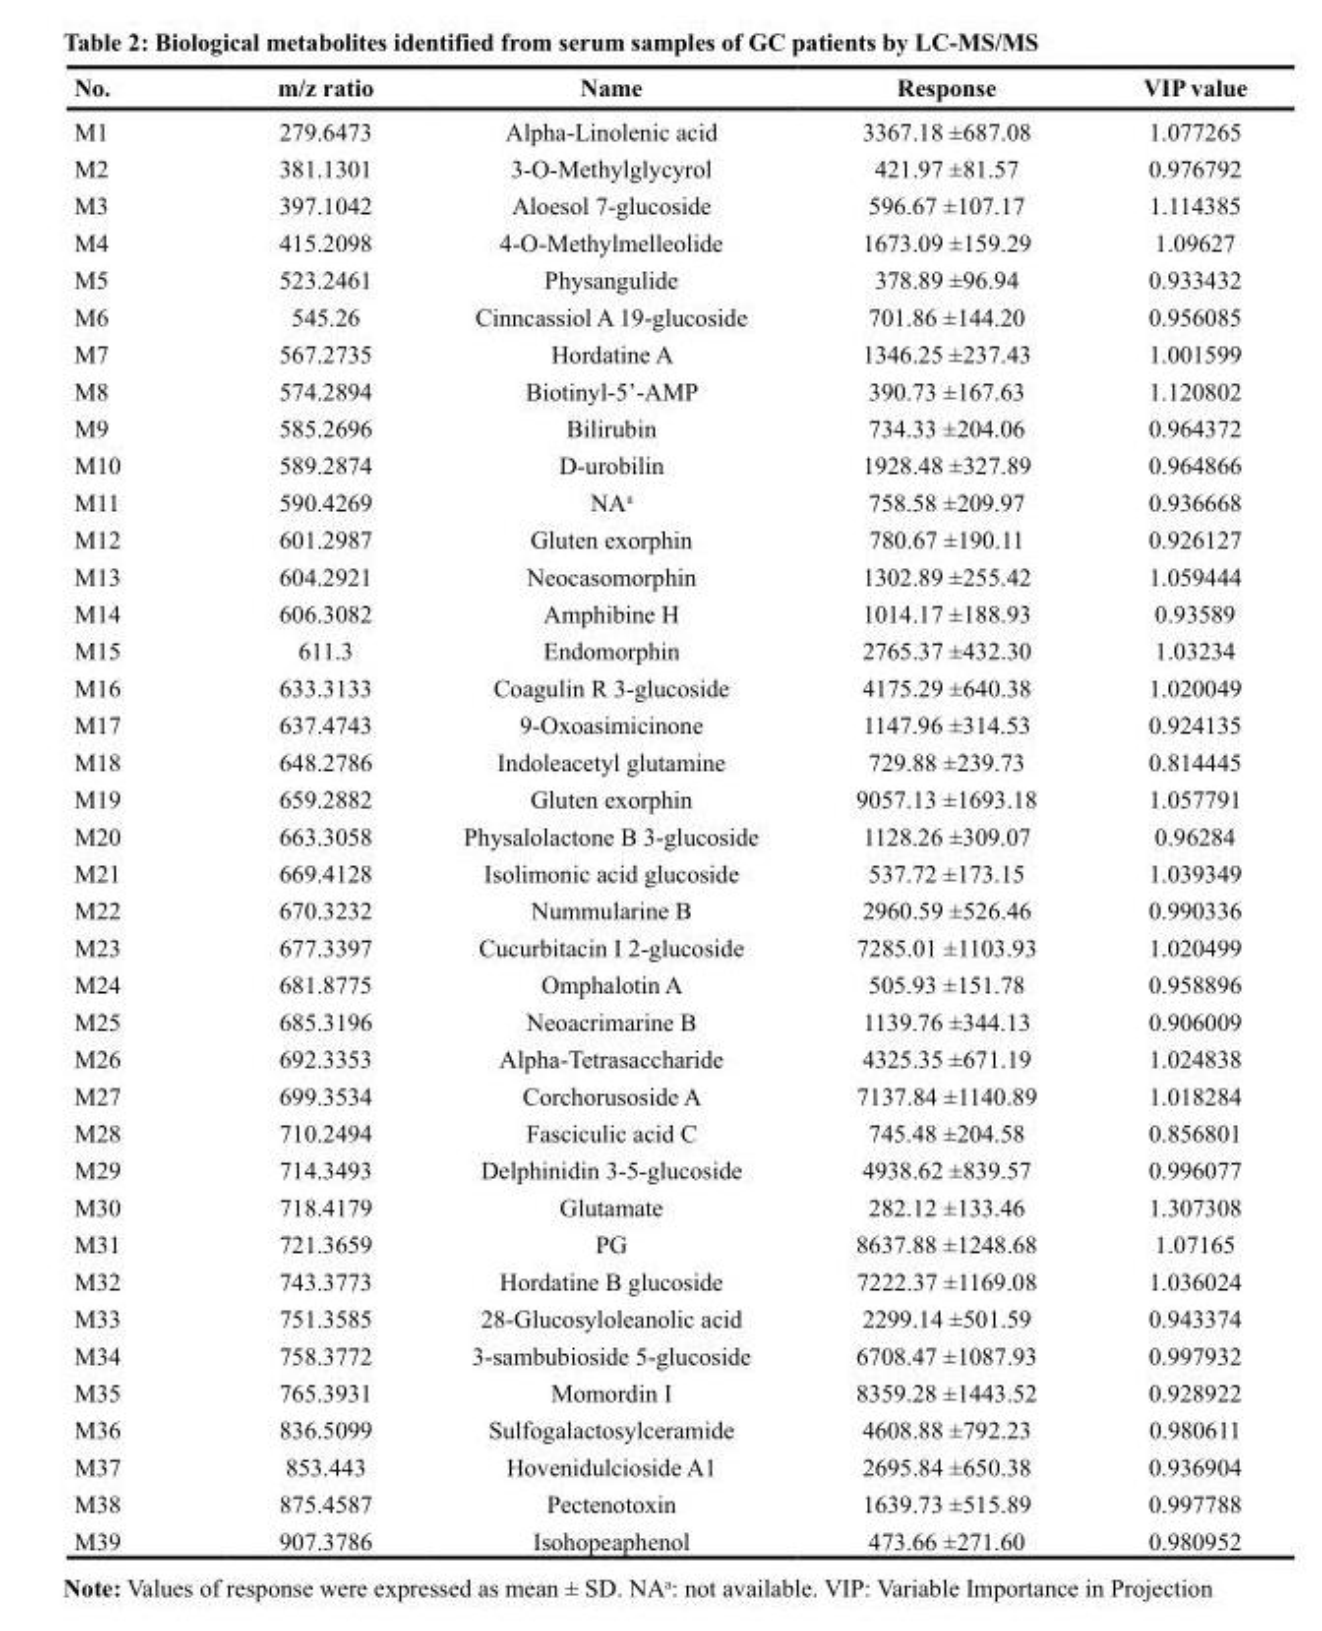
<table><thead><tr><td>No.</td><td>m/z ratio</td><td>Name</td><td>Response</td><td>VIP value</td></tr></thead><tbody><tr><td>M1</td><td>279.6473</td><td>Alpha-Linolenic acid</td><td>3367.18 ±687.08</td><td>1.077265</td></tr><tr><td>M2</td><td>381.1301</td><td>3-O-Methylglycyrol</td><td>421.97 ±81.57</td><td>0.976792</td></tr><tr><td>M3</td><td>397.1042</td><td>Aloesol 7-glucoside</td><td>596.67 ±107.17</td><td>1.114385</td></tr><tr><td>M4</td><td>415.2098</td><td>4-O-Methylmelleolide</td><td>1673.09 ±159.29</td><td>1.09627</td></tr><tr><td>M5</td><td>523.2461</td><td>Physangulide</td><td>378.89 ±96.94</td><td>0.933432</td></tr><tr><td>M6</td><td>545.26</td><td>Cinncassiol A 19-glucoside</td><td>701.86 ±144.20</td><td>0.956085</td></tr><tr><td>M7</td><td>567.2735</td><td>Hordatine A</td><td>1346.25 ±237.43</td><td>1.001599</td></tr><tr><td>M8</td><td>574.2894</td><td>Biotinyl-5’-AMP</td><td>390.73 ±167.63</td><td>1.120802</td></tr><tr><td>M9</td><td>585.2696</td><td>Bilirubin</td><td>734.33 ±204.06</td><td>0.964372</td></tr><tr><td>M10</td><td>589.2874</td><td>D-urobilin</td><td>1928.48 ±327.89</td><td>0.964866</td></tr><tr><td>M11</td><td>590.4269</td><td>NA<sup>a</sup></td><td>758.58 ±209.97</td><td>0.936668</td></tr><tr><td>M12</td><td>601.2987</td><td>Gluten exorphin</td><td>780.67 ±190.11</td><td>0.926127</td></tr><tr><td>M13</td><td>604.2921</td><td>Neocasomorphin</td><td>1302.89 ±255.42</td><td>1.059444</td></tr><tr><td>M14</td><td>606.3082</td><td>Amphibine H</td><td>1014.17 ±188.93</td><td>0.93589</td></tr><tr><td>M15</td><td>611.3</td><td>Endomorphin</td><td>2765.37 ±432.30</td><td>1.03234</td></tr><tr><td>M16</td><td>633.3133</td><td>Coagulin R 3-glucoside</td><td>4175.29 ±640.38</td><td>1.020049</td></tr><tr><td>M17</td><td>637.4743</td><td>9-Oxoasimicinone</td><td>1147.96 ±314.53</td><td>0.924135</td></tr><tr><td>M18</td><td>648.2786</td><td>Indoleacetyl glutamine</td><td>729.88 ±239.73</td><td>0.814445</td></tr><tr><td>M19</td><td>659.2882</td><td>Gluten exorphin</td><td>9057.13 ±1693.18</td><td>1.057791</td></tr><tr><td>M20</td><td>663.3058</td><td>Physalolactone B 3-glucoside</td><td>1128.26 ±309.07</td><td>0.96284</td></tr><tr><td>M21</td><td>669.4128</td><td>Isolimonic acid glucoside</td><td>537.72 ±173.15</td><td>1.039349</td></tr><tr><td>M22</td><td>670.3232</td><td>Nummularine B</td><td>2960.59 ±526.46</td><td>0.990336</td></tr><tr><td>M23</td><td>677.3397</td><td>Cucurbitacin I 2-glucoside</td><td>7285.01 ±1103.93</td><td>1.020499</td></tr><tr><td>M24</td><td>681.8775</td><td>Omphalotin A</td><td>505.93 ±151.78</td><td>0.958896</td></tr><tr><td>M25</td><td>685.3196</td><td>Neoacrimarine B</td><td>1139.76 ±344.13</td><td>0.906009</td></tr><tr><td>M26</td><td>692.3353</td><td>Alpha-Tetrasaccharide</td><td>4325.35 ±671.19</td><td>1.024838</td></tr><tr><td>M27</td><td>699.3534</td><td>Corchorusoside A</td><td>7137.84 ±1140.89</td><td>1.018284</td></tr><tr><td>M28</td><td>710.2494</td><td>Fasciculic acid C</td><td>745.48 ±204.58</td><td>0.856801</td></tr><tr><td>M29</td><td>714.3493</td><td>Delphinidin 3-5-glucoside</td><td>4938.62 ±839.57</td><td>0.996077</td></tr><tr><td>M30</td><td>718.4179</td><td>Glutamate</td><td>282.12 ±133.46</td><td>1.307308</td></tr><tr><td>M31</td><td>721.3659</td><td>PG</td><td>8637.88 ±1248.68</td><td>1.07165</td></tr><tr><td>M32</td><td>743.3773</td><td>Hordatine B glucoside</td><td>7222.37 ±1169.08</td><td>1.036024</td></tr><tr><td>M33</td><td>751.3585</td><td>28-Glucosyloleanolic acid</td><td>2299.14 ±501.59</td><td>0.943374</td></tr><tr><td>M34</td><td>758.3772</td><td>3-sambubioside 5-glucoside</td><td>6708.47 ±1087.93</td><td>0.997932</td></tr><tr><td>M35</td><td>765.3931</td><td>Momordin I</td><td>8359.28 ±1443.52</td><td>0.928922</td></tr><tr><td>M36</td><td>836.5099</td><td>Sulfogalactosylceramide</td><td>4608.88 ±792.23</td><td>0.980611</td></tr><tr><td>M37</td><td>853.443</td><td>Hovenidulcioside A1</td><td>2695.84 ±650.38</td><td>0.936904</td></tr><tr><td>M38</td><td>875.4587</td><td>Pectenotoxin</td><td>1639.73 ±515.89</td><td>0.997788</td></tr><tr><td>M39</td><td>907.3786</td><td>Isohopeaphenol</td><td>473.66 ±271.60</td><td>0.980952</td></tr></tbody></table>